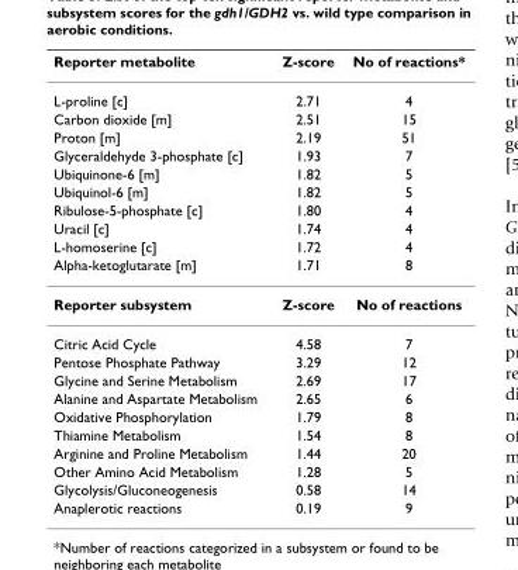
<table><thead><tr><td>Reporter metabolite</td><td>Z-score</td><td>No of reactions*</td></tr></thead><tbody><tr><td>L-proline [c]</td><td>2.71</td><td>4</td></tr><tr><td>Carbon dioxide [m]</td><td>2.51</td><td>15</td></tr><tr><td>Proton [m]</td><td>2.19</td><td>51</td></tr><tr><td>Glyceraldehyde 3-phosphate [c]</td><td>1.93</td><td>7</td></tr><tr><td>Ubiquinone-6 [m]</td><td>1.82</td><td>5</td></tr><tr><td>Ubiquinol-6 [m]</td><td>1.82</td><td>5</td></tr><tr><td>Ribulose-5-phosphate [c]</td><td>1.80</td><td>4</td></tr><tr><td>Uracil [c]</td><td>1.74</td><td>4</td></tr><tr><td>L-homoserine [c]</td><td>1.72</td><td>4</td></tr><tr><td>Alpha-ketoglutarate [m]</td><td>1.71</td><td>8</td></tr><tr><td>Reporter subsystem</td><td>Z-score</td><td>No of reactions</td></tr><tr><td>Citric Acid Cycle</td><td>4.58</td><td>7</td></tr><tr><td>Pentose Phosphate Pathway</td><td>3.29</td><td>12</td></tr><tr><td>Glycine and Serine Metabolism</td><td>2.69</td><td>17</td></tr><tr><td>Alanine and Aspartate Metabolism</td><td>2.65</td><td>6</td></tr><tr><td>Oxidative Phosphorylation</td><td>1.79</td><td>8</td></tr><tr><td>Thiamine Metabolism</td><td>1.54</td><td>8</td></tr><tr><td>Arginine and Proline Metabolism</td><td>1.44</td><td>20</td></tr><tr><td>Other Amino Acid Metabolism</td><td>1.28</td><td>5</td></tr><tr><td>Glycolysis/Gluconeogenesis</td><td>0.58</td><td>14</td></tr><tr><td>Anaplerotic reactions</td><td>0.19</td><td>9</td></tr></tbody></table>